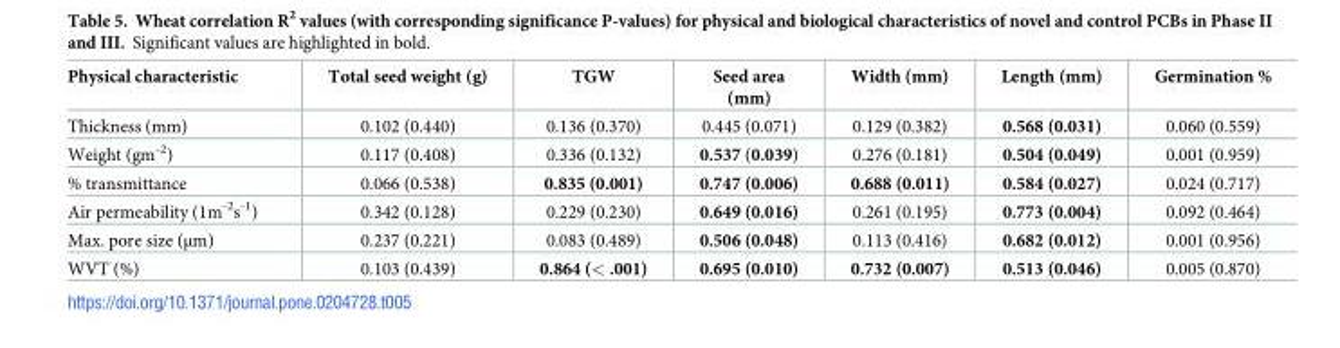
<table><thead><tr><td>Physical characteristic</td><td>Total seed weight (g)</td><td>TGW</td><td>Seed area (mm)</td><td>Width (mm)</td><td>Length (mm)</td><td>Germination %</td></tr></thead><tbody><tr><td>Thickness (mm)</td><td>0.102 (0.440)</td><td>0.136 (0.370)</td><td>0.445 (0.071)</td><td>0.129 (0.382)</td><td>0.568 (0.031)</td><td>0.060 (0.559)</td></tr><tr><td>Weight (gm<sup>-2</sup>)</td><td>0.117 (0.408)</td><td>0.336 (0.132)</td><td>0.537 (0.039)</td><td>0.276 (0.181)</td><td>0.504 (0.049)</td><td>0.001 (0.959)</td></tr><tr><td>% transmittance</td><td>0.066 (0.538)</td><td>0.835 (0.001)</td><td>0.747 (0.006)</td><td>0.688 (0.011)</td><td>0.584 (0.027)</td><td>0.024 (0.717)</td></tr><tr><td>Air permeability (1m<sup>-2</sup>s<sup>-1</sup>)</td><td>0.342 (0.128)</td><td>0.229 (0.230)</td><td>0.649 (0.016)</td><td>0.261 (0.195)</td><td>0.773 (0.004)</td><td>0.092 (0.464)</td></tr><tr><td>Max. pore size (µm)</td><td>0.237 (0.221)</td><td>0.083 (0.489)</td><td>0.506 (0.048)</td><td>0.113 (0.416)</td><td>0.682 (0.012)</td><td>0.001 (0.956)</td></tr><tr><td>WVT (%)</td><td>0.103 (0.439)</td><td>0.864 (&lt; .001)</td><td>0.695 (0.010)</td><td>0.732 (0.007)</td><td>0.513 (0.046)</td><td>0.005 (0.870)</td></tr></tbody></table>